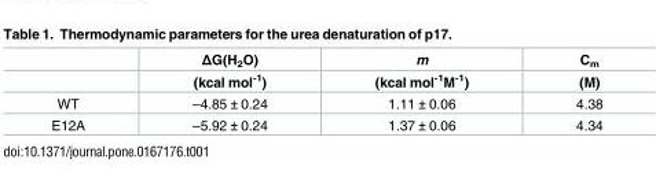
<table><thead><tr><td rowspan="2"></td><td rowspan="2">ΔG(H<sub>2</sub>O) (kcal mol<sup>-1</sup>)</td><td rowspan="2">m (kcal mol<sup>-1</sup>M<sup>-1</sup>)</td><td rowspan="2">C<sub>m</sub> (M)</td></tr><tr></tr></thead><tbody><tr><td>WT</td><td>–4.85 ± 0.24</td><td>1.11 ± 0.06</td><td>4.38</td></tr><tr><td>E12A</td><td>–5.92 ± 0.24</td><td>1.37 ± 0.06</td><td>4.34</td></tr></tbody></table>